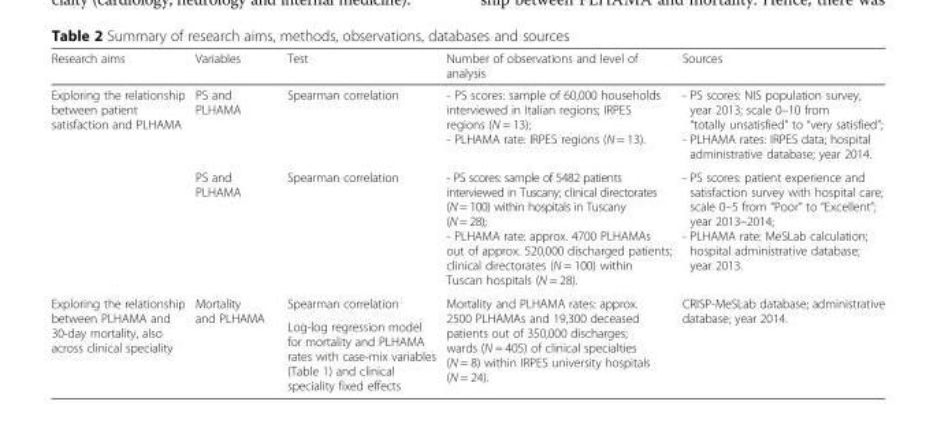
<table><thead><tr><td>Research aims</td><td>Variables</td><td>Test</td><td>Number of observations and level of analysis</td><td>Sources</td></tr></thead><tbody><tr><td rowspan="2">Exploring the relationship between patient satisfaction and PLHAMA</td><td>PS and PLHAMA</td><td>Spearman correlation</td><td>- PS scores: sample of 60,000 households interviewed in Italian regions; IRPES regions (N = 13); - PLHAMA rate: IRPES regions (N = 13).</td><td>- PS scores: NIS population survey, year 2013; scale 0–10 from “totally unsatisfied” to “very satisfied”; - PLHAMA rates: IRPES data; hospital administrative database; year 2014.</td></tr><tr><td>PS and PLHAMA</td><td>Spearman correlation</td><td>- PS scores: sample of 5482 patients interviewed in Tuscany; clinical directorates (N = 100) within hospitals in Tuscany (N = 28); - PLHAMA rate: approx. 4700 PLHAMAs out of approx. 520,000 discharged patients; clinical directorates (N = 100) within Tuscan hospitals (N = 28).</td><td>- PS scores: patient experience and satisfaction survey with hospital care; scale 0–5 from “Poor” to “Excellent”; year 2013–2014; - PLHAMA rate: MeSLab calculation; hospital administrative database; year 2013.</td></tr><tr><td rowspan="2">Exploring the relationship between PLHAMA and 30-day mortality, also across clinical speciality</td><td rowspan="2">Mortality and PLHAMA</td><td>Spearman correlation</td><td rowspan="2">Mortality and PLHAMA rates: approx. 2500 PLHAMAs and 19,300 deceased patients out of 350,000 discharges; wards (N = 405) of clinical specialties (N = 8) within IRPES university hospitals (N = 24).</td><td rowspan="2">CRISP-MeSLab database; administrative database; year 2014.</td></tr><tr><td>Log-log regression model for mortality and PLHAMA rates with case-mix variables (Table 1) and clinical speciality fixed effects</td></tr></tbody></table>